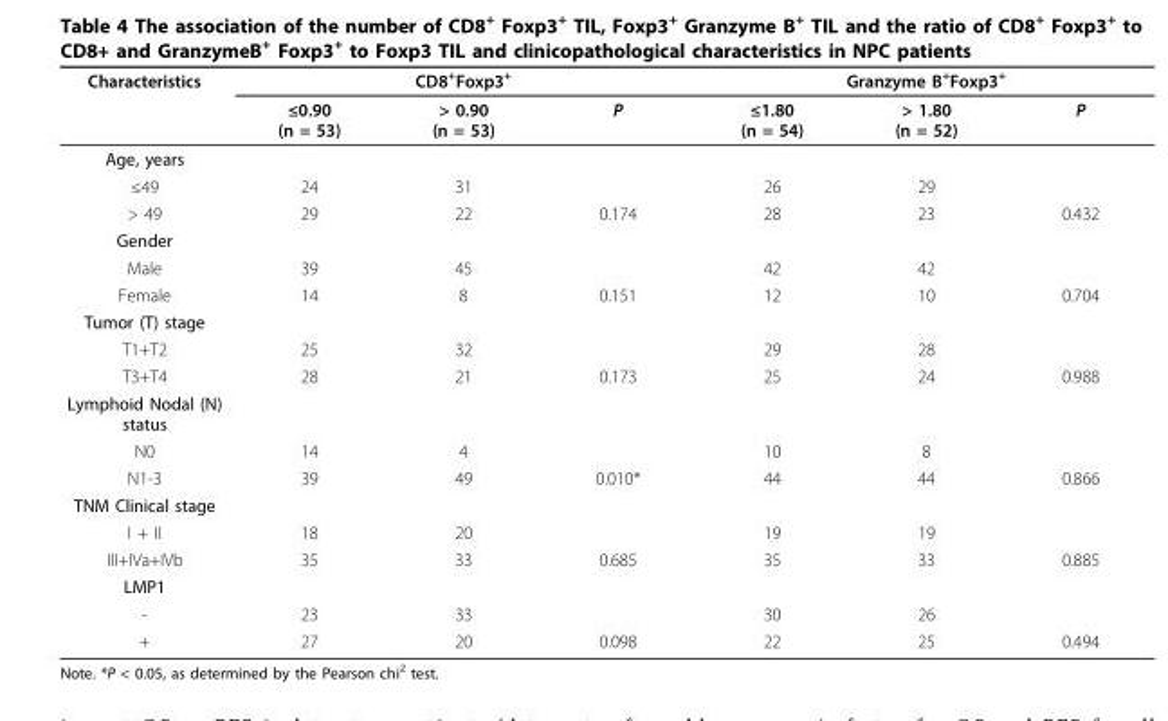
<table><thead><tr><td rowspan="2">Characteristics</td><td colspan="3">CD8<sup>+</sup>Foxp3<sup>+</sup></td><td colspan="3">Granzyme B<sup>+</sup>Foxp3<sup>+</sup></td></tr><tr><td>≤0.90 (n = 53)</td><td>&gt; 0.90 (n = 53)</td><td>P</td><td>≤1.80 (n = 54)</td><td>&gt; 1.80 (n = 52)</td><td>P</td></tr></thead><tbody><tr><td colspan="7">Age, years</td></tr><tr><td>≤49</td><td>24</td><td>31</td><td></td><td>26</td><td>29</td><td></td></tr><tr><td>&gt; 49</td><td>29</td><td>22</td><td>0.174</td><td>28</td><td>23</td><td>0.432</td></tr><tr><td colspan="7">Gender</td></tr><tr><td>Male</td><td>39</td><td>45</td><td></td><td>42</td><td>42</td><td></td></tr><tr><td>Female</td><td>14</td><td>8</td><td>0.151</td><td>12</td><td>10</td><td>0.704</td></tr><tr><td colspan="7">Tumor (T) stage</td></tr><tr><td>T1+T2</td><td>25</td><td>32</td><td></td><td>29</td><td>28</td><td></td></tr><tr><td>T3+T4</td><td>28</td><td>21</td><td>0.173</td><td>25</td><td>24</td><td>0.988</td></tr><tr><td colspan="7">Lymphoid Nodal (N) status</td></tr><tr><td>N0</td><td>14</td><td>4</td><td></td><td>10</td><td>8</td><td></td></tr><tr><td>N1-3</td><td>39</td><td>49</td><td>0.010*</td><td>44</td><td>44</td><td>0.866</td></tr><tr><td colspan="7">TNM Clinical stage</td></tr><tr><td>I + II</td><td>18</td><td>20</td><td></td><td>19</td><td>19</td><td></td></tr><tr><td>III+IVa+IVb</td><td>35</td><td>33</td><td>0.685</td><td>35</td><td>33</td><td>0.885</td></tr><tr><td colspan="7">LMP1</td></tr><tr><td>-</td><td>23</td><td>33</td><td></td><td>30</td><td>26</td><td></td></tr><tr><td>+</td><td>27</td><td>20</td><td>0.098</td><td>22</td><td>25</td><td>0.494</td></tr></tbody></table>